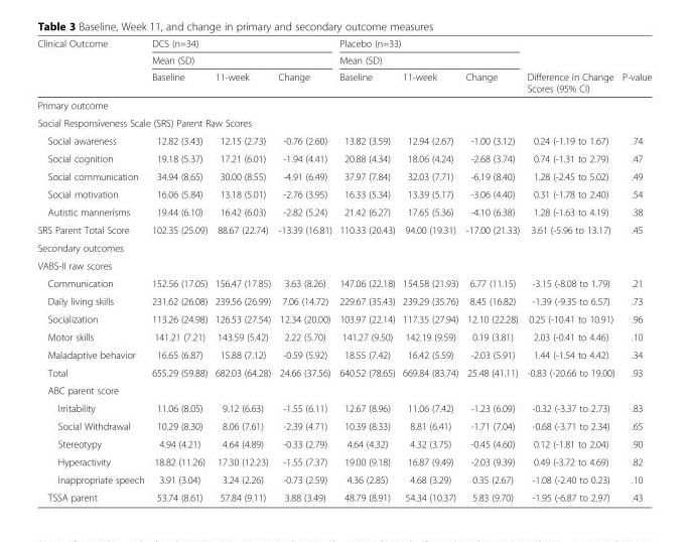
<table><thead><tr><td rowspan="3">Clinical Outcome</td><td rowspan="2" colspan="3">DCS (n=34) Mean (SD)</td><td rowspan="2" colspan="3">Placebo (n=33) Mean (SD)</td><td rowspan="3">Difference in Change Scores (95% CI)</td><td rowspan="3">P-value</td></tr><tr></tr><tr><td>Baseline</td><td>11-week</td><td>Change</td><td>Baseline</td><td>11-week</td><td>Change</td></tr></thead><tbody><tr><td colspan="9">Primary outcome</td></tr><tr><td colspan="9">Social Responsiveness Scale (SRS) Parent Raw Scores</td></tr><tr><td>Social awareness</td><td>12.82 (3.43)</td><td>12.15 (2.73)</td><td>-0.76 (2.60)</td><td>13.82 (3.59)</td><td>12.94 (2.67)</td><td>-1.00 (3.12)</td><td>0.24 (-1.19 to 1.67)</td><td>.74</td></tr><tr><td>Social cognition</td><td>19.18 (5.37)</td><td>17.21 (6.01)</td><td>-1.94 (4.41)</td><td>20.88 (4.34)</td><td>18.06 (4.24)</td><td>-2.68 (3.74)</td><td>0.74 (-1.31 to 2.79)</td><td>.47</td></tr><tr><td>Social communication</td><td>34.94 (8.65)</td><td>30.00 (8.55)</td><td>-4.91 (6.49)</td><td>37.97 (7.84)</td><td>32.03 (7.71)</td><td>-6.19 (8.40)</td><td>1.28 (-2.45 to 5.02)</td><td>.49</td></tr><tr><td>Social motivation</td><td>16.06 (5.84)</td><td>13.18 (5.01)</td><td>-2.76 (3.95)</td><td>16.33 (5.34)</td><td>13.39 (5.17)</td><td>-3.06 (4.40)</td><td>0.31 (-1.78 to 2.40)</td><td>.54</td></tr><tr><td>Autistic mannerisms</td><td>19.44 (6.10)</td><td>16.42 (6.03)</td><td>-2.82 (5.24)</td><td>21.42 (6.27)</td><td>17.65 (5.36)</td><td>-4.10 (6.38)</td><td>1.28 (-1.63 to 4.19)</td><td>.38</td></tr><tr><td>SRS Parent Total Score</td><td>102.35 (25.09)</td><td>88.67 (22.74)</td><td>-13.39 (16.81)</td><td>110.33 (20.43)</td><td>94.00 (19.31)</td><td>-17.00 (21.33)</td><td>3.61 (-5.96 to 13.17)</td><td>.45</td></tr><tr><td colspan="9">Secondary outcomes</td></tr><tr><td colspan="9">VABS-II raw scores</td></tr><tr><td>Communication</td><td>152.56 (17.05)</td><td>156.47 (17.85)</td><td>3.63 (8.26)</td><td>147.06 (22.18)</td><td>154.58 (21.93)</td><td>6.77 (11.15)</td><td>-3.15 (-8.08 to 1.79)</td><td>.21</td></tr><tr><td>Daily living skills</td><td>231.62 (26.08)</td><td>239.56 (26.99)</td><td>7.06 (14.72)</td><td>229.67 (35.43)</td><td>239.29 (35.76)</td><td>8.45 (16.82)</td><td>-1.39 (-9.35 to 6.57)</td><td>.73</td></tr><tr><td>Socialization</td><td>113.26 (24.98)</td><td>126.53 (27.54)</td><td>12.34 (20.00)</td><td>103.97 (22.14)</td><td>117.35 (27.94)</td><td>12.10 (22.28)</td><td>0.25 (-10.41 to 10.91)</td><td>.96</td></tr><tr><td>Motor skills</td><td>141.21 (7.21)</td><td>143.59 (5.42)</td><td>2.22 (5.70)</td><td>141.27 (9.50)</td><td>142.19 (9.59)</td><td>0.19 (3.81)</td><td>2.03 (-0.41 to 4.46)</td><td>.10</td></tr><tr><td>Maladaptive behavior</td><td>16.65 (6.87)</td><td>15.88 (7.12)</td><td>-0.59 (5.92)</td><td>18.55 (7.42)</td><td>16.42 (5.59)</td><td>-2.03 (5.91)</td><td>1.44 (-1.54 to 4.42)</td><td>.34</td></tr><tr><td>Total</td><td>655.29 (59.88)</td><td>682.03 (64.28)</td><td>24.66 (37.56)</td><td>640.52 (78.65)</td><td>669.84 (83.74)</td><td>25.48 (41.11)</td><td>-0.83 (-20.66 to 19.00)</td><td>.93</td></tr><tr><td colspan="9">ABC parent score</td></tr><tr><td>Irritability</td><td>11.06 (8.05)</td><td>9.12 (6.63)</td><td>-1.55 (6.11)</td><td>12.67 (8.96)</td><td>11.06 (7.42)</td><td>-1.23 (6.09)</td><td>-0.32 (-3.37 to 2.73)</td><td>.83</td></tr><tr><td>Social Withdrawal</td><td>10.29 (8.30)</td><td>8.06 (7.61)</td><td>-2.39 (4.71)</td><td>10.39 (8.33)</td><td>8.81 (6.41)</td><td>-1.71 (7.04)</td><td>-0.68 (-3.71 to 2.34)</td><td>.65</td></tr><tr><td>Stereotypy</td><td>4.94 (4.21)</td><td>4.64 (4.89)</td><td>-0.33 (2.79)</td><td>4.64 (4.32)</td><td>4.32 (3.75)</td><td>-0.45 (4.60)</td><td>0.12 (-1.81 to 2.04)</td><td>.90</td></tr><tr><td>Hyperactivity</td><td>18.82 (11.26)</td><td>17.30 (12.23)</td><td>-1.55 (7.37)</td><td>19.00 (9.18)</td><td>16.87 (9.49)</td><td>-2.03 (9.39)</td><td>0.49 (-3.72 to 4.69)</td><td>.82</td></tr><tr><td>Inappropriate speech</td><td>3.91 (3.04)</td><td>3.24 (2.26)</td><td>-0.73 (2.59)</td><td>4.36 (2.85)</td><td>4.68 (3.29)</td><td>0.35 (2.67)</td><td>-1.08 (-2.40 to 0.23)</td><td>.10</td></tr><tr><td>TSSA parent</td><td>53.74 (8.61)</td><td>57.84 (9.11)</td><td>3.88 (3.49)</td><td>48.79 (8.91)</td><td>54.34 (10.37)</td><td>5.83 (9.70)</td><td>-1.95 (-6.87 to 2.97)</td><td>.43</td></tr></tbody></table>